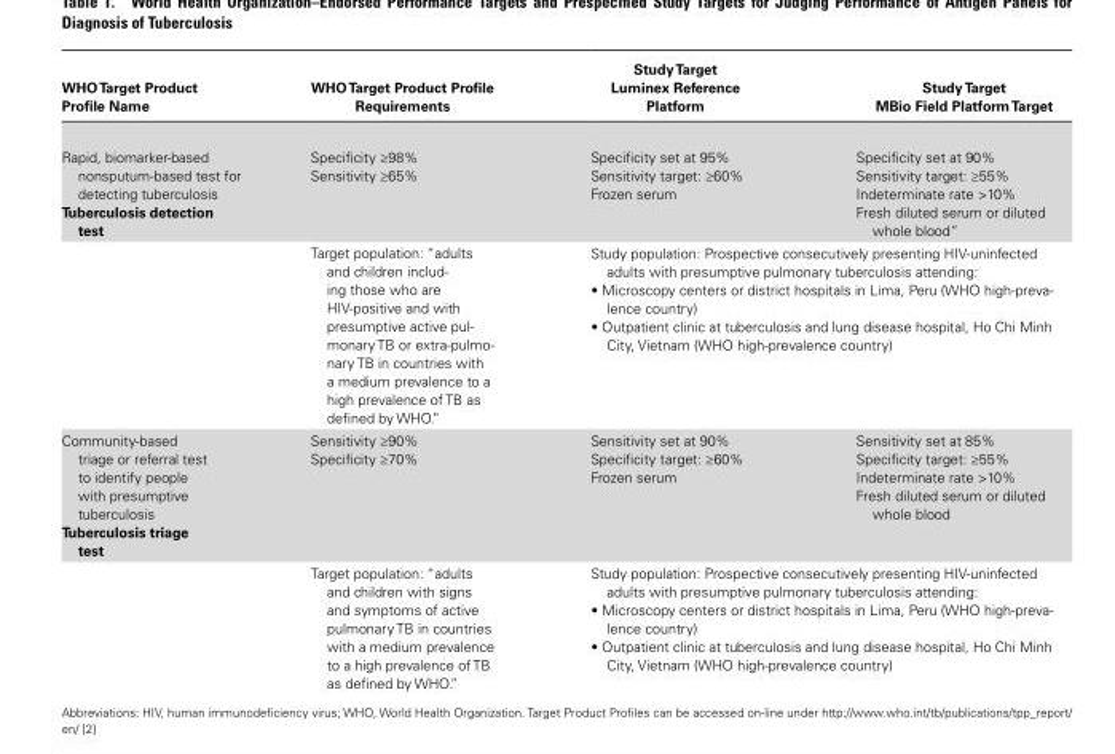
<table><thead><tr><td>WHO Target Product Profile Name</td><td>WHO Target Product Profile Requirements</td><td>Study Target Luminex Reference Platform</td><td>Study Target MBio Field Platform Target</td></tr></thead><tbody><tr><td rowspan="2">Rapid, biomarker-based nonsputum-based test for detecting tuberculosis Tuberculosis detection test</td><td>Specificity ≥98% Sensitivity ≥65%</td><td>Specificity set at 95% Sensitivity target: ≥60% Frozen serum</td><td>Specificity set at 90% Sensitivity target: ≥55% Indeterminate rate &gt;10% Fresh diluted serum or diluted whole blood”</td></tr><tr><td>Target population: “adults and children includ- ing those who are HIV-positive and with presumptive active pul- monary TB or extra-pulmo- nary TB in countries with a medium prevalence to a high prevalence of TB as defined by WHO.”</td><td colspan="2">Study population: Prospective consecutively presenting HIV-uninfected adults with presumptive pulmonary tuberculosis attending: • Microscopy centers or district hospitals in Lima, Peru (WHO high-preva- lence country) • Outpatient clinic at tuberculosis and lung disease hospital, Ho Chi Minh City, Vietnam (WHO high-prevalence country)</td></tr><tr><td rowspan="2">Community-based triage or referral test to identify people with presumptive tuberculosis Tuberculosis triage test</td><td>Sensitivity ≥90% Specificity ≥70%</td><td>Sensitivity set at 90% Specificity target: ≥60% Frozen serum</td><td>Sensitivity set at 85% Specificity target: ≥55% Indeterminate rate &gt;10% Fresh diluted serum or diluted whole blood</td></tr><tr><td>Target population: “adults and children with signs and symptoms of active pulmonary TB in countries with a medium prevalence to a high prevalence of TB as defined by WHO.”</td><td colspan="2">Study population: Prospective consecutively presenting HIV-uninfected adults with presumptive pulmonary tuberculosis attending: • Microscopy centers or district hospitals in Lima, Peru (WHO high-preva- lence country) • Outpatient clinic at tuberculosis and lung disease hospital, Ho Chi Minh City, Vietnam (WHO high-prevalence country)</td></tr></tbody></table>